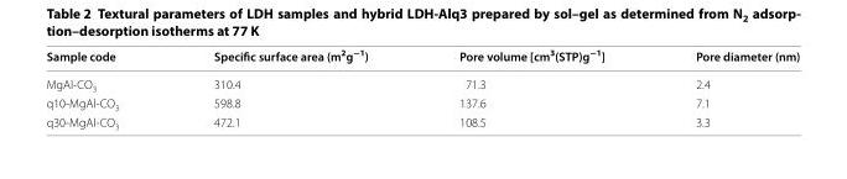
<table><thead><tr><td>Sample code</td><td>Specific surface area (m<sup>2</sup>g<sup>−1</sup>)</td><td>Pore volume [cm<sup>3</sup>(STP)g<sup>−1</sup>]</td><td>Pore diameter (nm)</td></tr></thead><tbody><tr><td>MgAl-CO<sub>3</sub></td><td>310.4</td><td>71.3</td><td>2.4</td></tr><tr><td>q10-MgAl-CO<sub>3</sub></td><td>598.8</td><td>137.6</td><td>7.1</td></tr><tr><td>q30-MgAl-CO<sub>3</sub></td><td>472.1</td><td>108.5</td><td>3.3</td></tr></tbody></table>